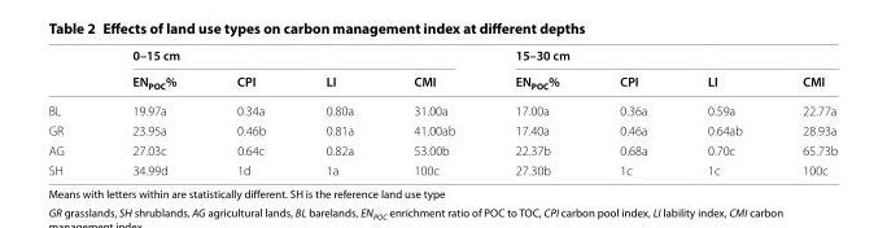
<table><thead><tr><td rowspan="2"></td><td colspan="4">0–15 cm</td><td colspan="4">15–30 cm</td></tr><tr><td>EN<sub>POC</sub>%</td><td>CPI</td><td>LI</td><td>CMI</td><td>EN<sub>POC</sub>%</td><td>CPI</td><td>LI</td><td>CMI</td></tr></thead><tbody><tr><td>BL</td><td>19.97a</td><td>0.34a</td><td>0.80a</td><td>31.00a</td><td>17.00a</td><td>0.36a</td><td>0.59a</td><td>22.77a</td></tr><tr><td>GR</td><td>23.95a</td><td>0.46b</td><td>0.81a</td><td>41.00ab</td><td>17.40a</td><td>0.46a</td><td>0.64ab</td><td>28.93a</td></tr><tr><td>AG</td><td>27.03c</td><td>0.64c</td><td>0.82a</td><td>53.00b</td><td>22.37b</td><td>0.68a</td><td>0.70c</td><td>65.73b</td></tr><tr><td>SH</td><td>34.99d</td><td>1d</td><td>1a</td><td>100c</td><td>27.30b</td><td>1c</td><td>1c</td><td>100c</td></tr></tbody></table>